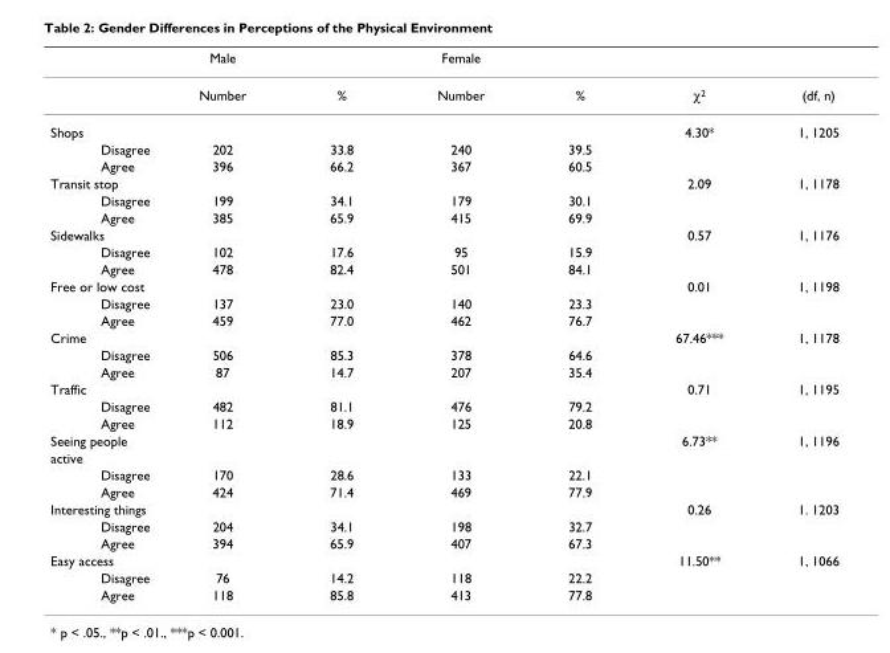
<table><thead><tr><td></td><td>Male</td><td></td><td>Female</td><td></td><td></td><td></td></tr></thead><tbody><tr><td></td><td>Number</td><td>%</td><td>Number</td><td>%</td><td>χ<sup>2</sup></td><td>(df, n)</td></tr><tr><td>Shops</td><td></td><td></td><td></td><td></td><td>4.30*</td><td>1, 1205</td></tr><tr><td>Disagree</td><td>202</td><td>33.8</td><td>240</td><td>39.5</td><td></td><td></td></tr><tr><td>Agree</td><td>396</td><td>66.2</td><td>367</td><td>60.5</td><td></td><td></td></tr><tr><td>Transit stop</td><td></td><td></td><td></td><td></td><td>2.09</td><td>1, 1178</td></tr><tr><td>Disagree</td><td>199</td><td>34.1</td><td>179</td><td>30.1</td><td></td><td></td></tr><tr><td>Agree</td><td>385</td><td>65.9</td><td>415</td><td>69.9</td><td></td><td></td></tr><tr><td>Sidewalks</td><td></td><td></td><td></td><td></td><td>0.57</td><td>1, 1176</td></tr><tr><td>Disagree</td><td>102</td><td>17.6</td><td>95</td><td>15.9</td><td></td><td></td></tr><tr><td>Agree</td><td>478</td><td>82.4</td><td>501</td><td>84.1</td><td></td><td></td></tr><tr><td>Free or low cost</td><td></td><td></td><td></td><td></td><td>0.01</td><td>1, 1198</td></tr><tr><td>Disagree</td><td>137</td><td>23.0</td><td>140</td><td>23.3</td><td></td><td></td></tr><tr><td>Agree</td><td>459</td><td>77.0</td><td>462</td><td>76.7</td><td></td><td></td></tr><tr><td>Crime</td><td></td><td></td><td></td><td></td><td>67.46***</td><td>1, 1178</td></tr><tr><td>Disagree</td><td>506</td><td>85.3</td><td>378</td><td>64.6</td><td></td><td></td></tr><tr><td>Agree</td><td>87</td><td>14.7</td><td>207</td><td>35.4</td><td></td><td></td></tr><tr><td>Traffic</td><td></td><td></td><td></td><td></td><td>0.71</td><td>1, 1195</td></tr><tr><td>Disagree</td><td>482</td><td>81.1</td><td>476</td><td>79.2</td><td></td><td></td></tr><tr><td>Agree</td><td>112</td><td>18.9</td><td>125</td><td>20.8</td><td></td><td></td></tr><tr><td>Seeing people</td><td></td><td></td><td></td><td></td><td>6.73**</td><td>1, 1196</td></tr><tr><td colspan="7">active</td></tr><tr><td>Disagree</td><td>170</td><td>28.6</td><td>133</td><td>22.1</td><td></td><td></td></tr><tr><td>Agree</td><td>424</td><td>71.4</td><td>469</td><td>77.9</td><td></td><td></td></tr><tr><td>Interesting things</td><td></td><td></td><td></td><td></td><td>0.26</td><td>1. 1203</td></tr><tr><td>Disagree</td><td>204</td><td>34.1</td><td>198</td><td>32.7</td><td></td><td></td></tr><tr><td>Agree</td><td>394</td><td>65.9</td><td>407</td><td>67.3</td><td></td><td></td></tr><tr><td>Easy access</td><td></td><td></td><td></td><td></td><td>11.50**</td><td>1, 1066</td></tr><tr><td>Disagree</td><td>76</td><td>14.2</td><td>118</td><td>22.2</td><td></td><td></td></tr><tr><td>Agree</td><td>118</td><td>85.8</td><td>413</td><td>77.8</td><td></td><td></td></tr></tbody></table>